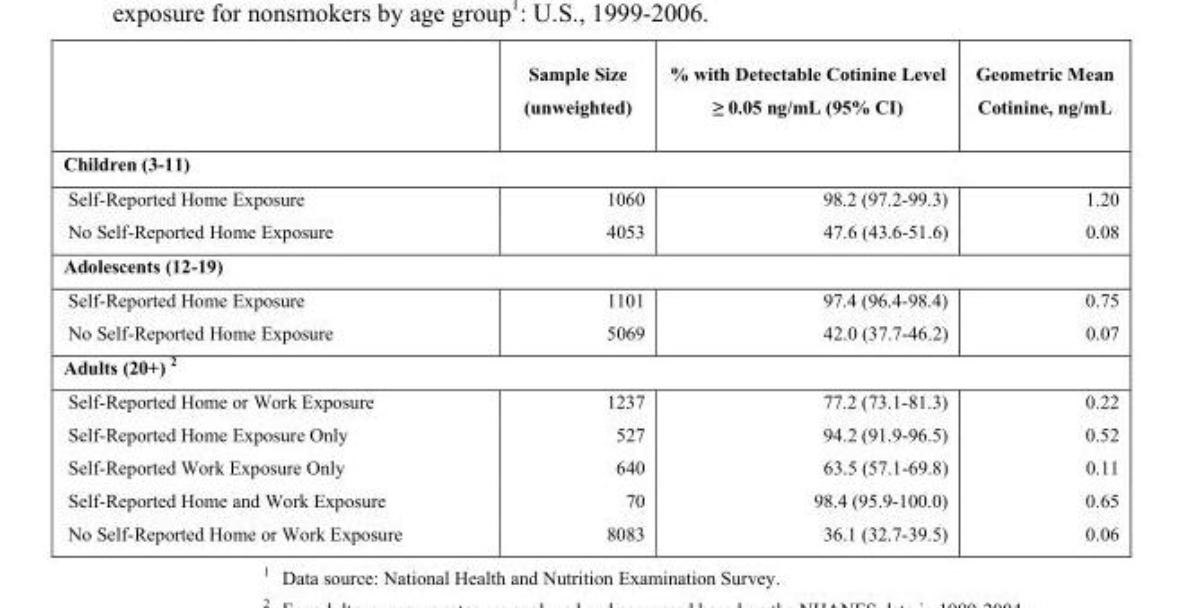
<table><thead><tr><td></td><td>Sample Size (unweighted)</td><td>% with Detectable Cotinine Level ≥ 0.05 ng/mL (95% CI)</td><td>Geometric Mean Cotinine, ng/mL</td></tr></thead><tbody><tr><td colspan="4">Children (3-11)</td></tr><tr><td>Self-Reported Home Exposure</td><td>1060</td><td>98.2 (97.2-99.3)</td><td>1.20</td></tr><tr><td>No Self-Reported Home Exposure</td><td>4053</td><td>47.6 (43.6-51.6)</td><td>0.08</td></tr><tr><td colspan="4">Adolescents (12-19)</td></tr><tr><td>Self-Reported Home Exposure</td><td>1101</td><td>97.4 (96.4-98.4)</td><td>0.75</td></tr><tr><td>No Self-Reported Home Exposure</td><td>5069</td><td>42.0 (37.7-46.2)</td><td>0.07</td></tr><tr><td colspan="4">Adults (20+) <sup>2</sup></td></tr><tr><td>Self-Reported Home or Work Exposure</td><td>1237</td><td>77.2 (73.1-81.3)</td><td>0.22</td></tr><tr><td>Self-Reported Home Exposure Only</td><td>527</td><td>94.2 (91.9-96.5)</td><td>0.52</td></tr><tr><td>Self-Reported Work Exposure Only</td><td>640</td><td>63.5 (57.1-69.8)</td><td>0.11</td></tr><tr><td>Self-Reported Home and Work Exposure</td><td>70</td><td>98.4 (95.9-100.0)</td><td>0.65</td></tr><tr><td>No Self-Reported Home or Work Exposure</td><td>8083</td><td>36.1 (32.7-39.5)</td><td>0.06</td></tr></tbody></table>